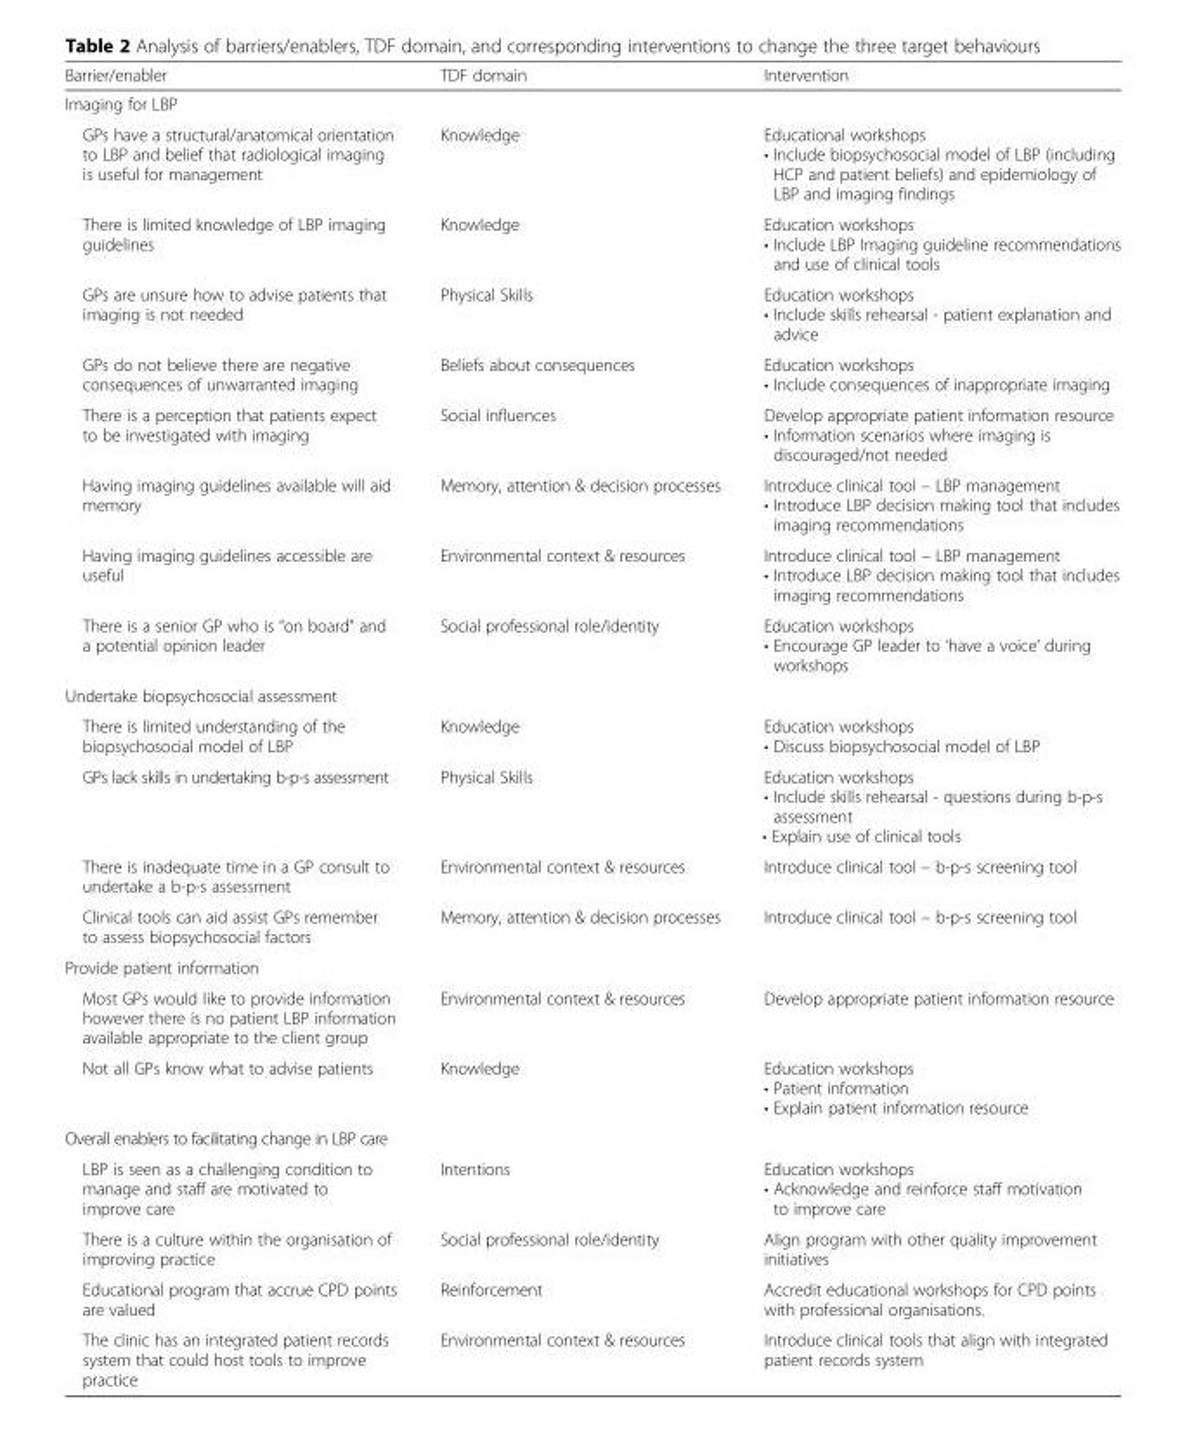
<table><thead><tr><td>Barrier/enabler</td><td>TDF domain</td><td>Intervention</td></tr></thead><tbody><tr><td colspan="3">Imaging for LBP</td></tr><tr><td>GPs have a structural/anatomical orientation to LBP and belief that radiological imaging is useful for management</td><td>Knowledge</td><td>Educational workshops • Include biopsychosocial model of LBP (including HCP and patient beliefs) and epidemiology of LBP and imaging findings</td></tr><tr><td>There is limited knowledge of LBP imaging guidelines</td><td>Knowledge</td><td>Education workshops • Include LBP Imaging guideline recommendations and use of clinical tools</td></tr><tr><td>GPs are unsure how to advise patients that imaging is not needed</td><td>Physical Skills</td><td>Education workshops • Include skills rehearsal - patient explanation and advice</td></tr><tr><td>GPs do not believe there are negative consequences of unwarranted imaging</td><td>Beliefs about consequences</td><td>Education workshops • Include consequences of inappropriate imaging</td></tr><tr><td>There is a perception that patients expect to be investigated with imaging</td><td>Social influences</td><td>Develop appropriate patient information resource • Information scenarios where imaging is discouraged/not needed</td></tr><tr><td>Having imaging guidelines available will aid memory</td><td>Memory, attention &amp; decision processes</td><td>Introduce clinical tool – LBP management • Introduce LBP decision making tool that includes imaging recommendations</td></tr><tr><td>Having imaging guidelines accessible are useful</td><td>Environmental context &amp; resources</td><td>Introduce clinical tool – LBP management • Introduce LBP decision making tool that includes imaging recommendations</td></tr><tr><td>There is a senior GP who is “on board” and a potential opinion leader</td><td>Social professional role/identity</td><td>Education workshops • Encourage GP leader to ‘have a voice’ during workshops</td></tr><tr><td colspan="3">Undertake biopsychosocial assessment</td></tr><tr><td>There is limited understanding of the biopsychosocial model of LBP</td><td>Knowledge</td><td>Education workshops • Discuss biopsychosocial model of LBP</td></tr><tr><td>GPs lack skills in undertaking b-p-s assessment</td><td>Physical Skills</td><td>Education workshops • Include skills rehearsal - questions during b-p-s assessment • Explain use of clinical tools</td></tr><tr><td>There is inadequate time in a GP consult to undertake a b-p-s assessment</td><td>Environmental context &amp; resources</td><td>Introduce clinical tool – b-p-s screening tool</td></tr><tr><td>Clinical tools can aid assist GPs remember to assess biopsychosocial factors</td><td>Memory, attention &amp; decision processes</td><td>Introduce clinical tool – b-p-s screening tool</td></tr><tr><td colspan="3">Provide patient information</td></tr><tr><td>Most GPs would like to provide information however there is no patient LBP information available appropriate to the client group</td><td>Environmental context &amp; resources</td><td>Develop appropriate patient information resource</td></tr><tr><td>Not all GPs know what to advise patients</td><td>Knowledge</td><td>Education workshops • Patient information • Explain patient information resource</td></tr><tr><td colspan="3">Overall enablers to facilitating change in LBP care</td></tr><tr><td>LBP is seen as a challenging condition to manage and staff are motivated to improve care</td><td>Intentions</td><td>Education workshops • Acknowledge and reinforce staff motivation to improve care</td></tr><tr><td>There is a culture within the organisation of improving practice</td><td>Social professional role/identity</td><td>Align program with other quality improvement initiatives</td></tr><tr><td>Educational program that accrue CPD points are valued</td><td>Reinforcement</td><td>Accredit educational workshops for CPD points with professional organisations.</td></tr><tr><td>The clinic has an integrated patient records system that could host tools to improve practice</td><td>Environmental context &amp; resources</td><td>Introduce clinical tools that align with integrated patient records system</td></tr></tbody></table>